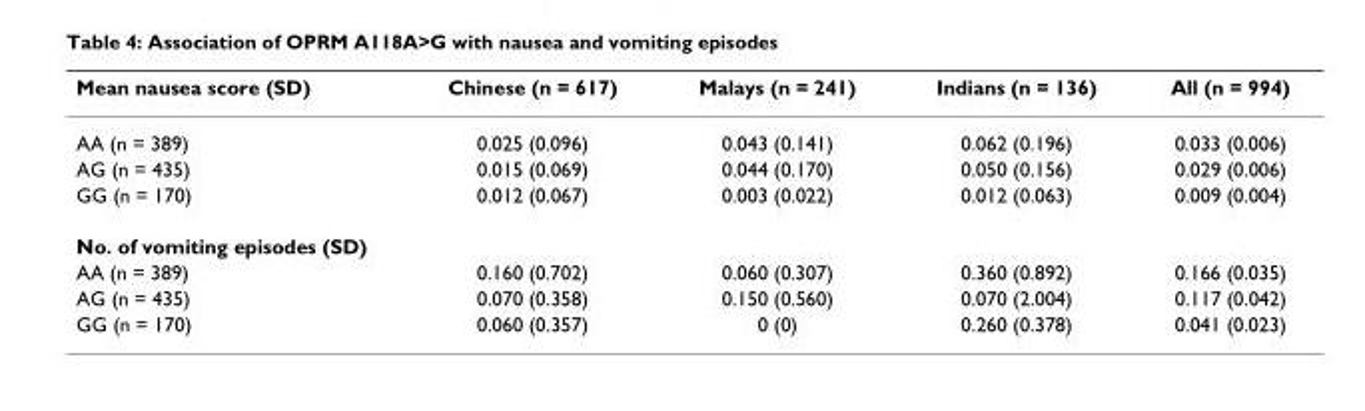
<table><thead><tr><td>Mean nausea score (SD)</td><td>Chinese (n = 617)</td><td>Malays (n = 241)</td><td>Indians (n = 136)</td><td>All (n = 994)</td></tr></thead><tbody><tr><td>AA (n = 389)</td><td>0.025 (0.096)</td><td>0.043 (0.141)</td><td>0.062 (0.196)</td><td>0.033 (0.006)</td></tr><tr><td>AG (n = 435)</td><td>0.015 (0.069)</td><td>0.044 (0.170)</td><td>0.050 (0.156)</td><td>0.029 (0.006)</td></tr><tr><td>GG (n = 170)</td><td>0.012 (0.067)</td><td>0.003 (0.022)</td><td>0.012 (0.063)</td><td>0.009 (0.004)</td></tr><tr><td colspan="5">No. of vomiting episodes (SD)</td></tr><tr><td>AA (n = 389)</td><td>0.160 (0.702)</td><td>0.060 (0.307)</td><td>0.360 (0.892)</td><td>0.166 (0.035)</td></tr><tr><td>AG (n = 435)</td><td>0.070 (0.358)</td><td>0.150 (0.560)</td><td>0.070 (2.004)</td><td>0.117 (0.042)</td></tr><tr><td>GG (n = 170)</td><td>0.060 (0.357)</td><td>0 (0)</td><td>0.260 (0.378)</td><td>0.041 (0.023)</td></tr></tbody></table>